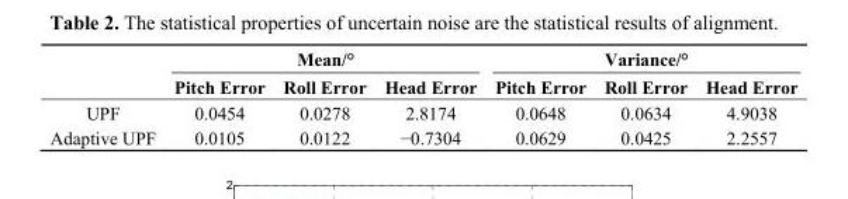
<table><thead><tr><td rowspan="2"></td><td colspan="3">Mean/°</td><td colspan="3">Variance/°</td></tr><tr><td>Pitch Error</td><td>Roll Error</td><td>Head Error</td><td>Pitch Error</td><td>Roll Error</td><td>Head Error</td></tr></thead><tbody><tr><td>UPF</td><td>0.0454</td><td>0.0278</td><td>2.8174</td><td>0.0648</td><td>0.0634</td><td>4.9038</td></tr><tr><td>Adaptive UPF</td><td>0.0105</td><td>0.0122</td><td>−0.7304</td><td>0.0629</td><td>0.0425</td><td>2.2557</td></tr></tbody></table>